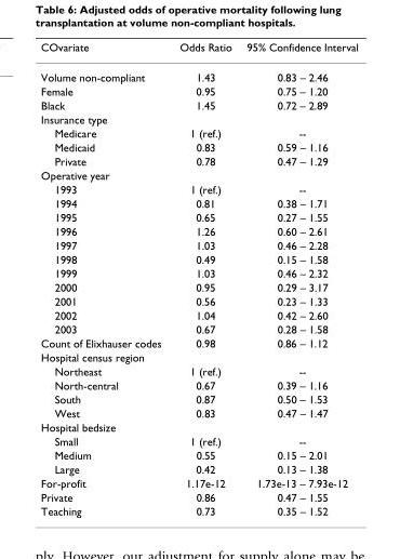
<table><thead><tr><td>COvariate</td><td>Odds Ratio</td><td>95% Confidence Interval</td></tr></thead><tbody><tr><td>Volume non-compliant</td><td>1.43</td><td>0.83 – 2.46</td></tr><tr><td>Female</td><td>0.95</td><td>0.75 – 1.20</td></tr><tr><td>Black</td><td>1.45</td><td>0.72 – 2.89</td></tr><tr><td colspan="3">Insurance type</td></tr><tr><td>Medicare</td><td>1 (ref.)</td><td>--</td></tr><tr><td>Medicaid</td><td>0.83</td><td>0.59 – 1.16</td></tr><tr><td>Private</td><td>0.78</td><td>0.47 – 1.29</td></tr><tr><td colspan="3">Operative year</td></tr><tr><td>1993</td><td>1 (ref.)</td><td>--</td></tr><tr><td>1994</td><td>0.81</td><td>0.38 – 1.71</td></tr><tr><td>1995</td><td>0.65</td><td>0.27 – 1.55</td></tr><tr><td>1996</td><td>1.26</td><td>0.60 – 2.61</td></tr><tr><td>1997</td><td>1.03</td><td>0.46 – 2.28</td></tr><tr><td>1998</td><td>0.49</td><td>0.15 – 1.58</td></tr><tr><td>1999</td><td>1.03</td><td>0.46 – 2.32</td></tr><tr><td>2000</td><td>0.95</td><td>0.29 – 3.17</td></tr><tr><td>2001</td><td>0.56</td><td>0.23 – 1.33</td></tr><tr><td>2002</td><td>1.04</td><td>0.42 – 2.60</td></tr><tr><td>2003</td><td>0.67</td><td>0.28 – 1.58</td></tr><tr><td>Count of Elixhauser codes</td><td>0.98</td><td>0.86 – 1.12</td></tr><tr><td colspan="3">Hospital census region</td></tr><tr><td>Northeast</td><td>1 (ref.)</td><td>--</td></tr><tr><td>North-central</td><td>0.67</td><td>0.39 – 1.16</td></tr><tr><td>South</td><td>0.87</td><td>0.50 – 1.53</td></tr><tr><td>West</td><td>0.83</td><td>0.47 – 1.47</td></tr><tr><td colspan="3">Hospital bedsize</td></tr><tr><td>Small</td><td>1 (ref.)</td><td>--</td></tr><tr><td>Medium</td><td>0.55</td><td>0.15 – 2.01</td></tr><tr><td>Large</td><td>0.42</td><td>0.13 – 1.38</td></tr><tr><td>For-profit</td><td>1.17e-12</td><td>1.73e-13 – 7.93e-12</td></tr><tr><td>Private</td><td>0.86</td><td>0.47 – 1.55</td></tr><tr><td>Teaching</td><td>0.73</td><td>0.35 – 1.52</td></tr></tbody></table>